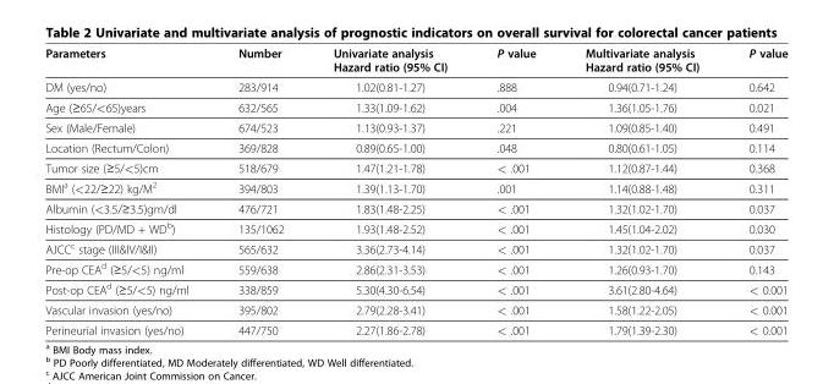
<table><thead><tr><td>Parameters</td><td>Number</td><td>Univariate analysis Hazard ratio (95% CI)</td><td>P value</td><td>Multivariate analysis Hazard ratio (95% CI)</td><td>P value</td></tr></thead><tbody><tr><td>DM (yes/no)</td><td>283/914</td><td>1.02(0.81-1.27)</td><td>.888</td><td>0.94(0.71-1.24)</td><td>0.642</td></tr><tr><td>Age (≥65/&lt;65)years</td><td>632/565</td><td>1.33(1.09-1.62)</td><td>.004</td><td>1.36(1.05-1.76)</td><td>0.021</td></tr><tr><td>Sex (Male/Female)</td><td>674/523</td><td>1.13(0.93-1.37)</td><td>.221</td><td>1.09(0.85-1.40)</td><td>0.491</td></tr><tr><td>Location (Rectum/Colon)</td><td>369/828</td><td>0.89(0.65-1.00)</td><td>.048</td><td>0.80(0.61-1.05)</td><td>0.114</td></tr><tr><td>Tumor size (≥5/&lt;5)cm</td><td>518/679</td><td>1.47(1.21-1.78)</td><td>&lt; .001</td><td>1.12(0.87-1.44)</td><td>0.368</td></tr><tr><td>BMI<sup>a</sup> (&lt;22/≥22) kg/M<sup>2</sup></td><td>394/803</td><td>1.39(1.13-1.70)</td><td>.001</td><td>1.14(0.88-1.48)</td><td>0.311</td></tr><tr><td>Albumin (&lt;3.5/≥3.5)gm/dl</td><td>476/721</td><td>1.83(1.48-2.25)</td><td>&lt; .001</td><td>1.32(1.02-1.70)</td><td>0.037</td></tr><tr><td>Histology (PD/MD + WD<sup>b</sup>)</td><td>135/1062</td><td>1.93(1.48-2.52)</td><td>&lt; .001</td><td>1.45(1.04-2.02)</td><td>0.030</td></tr><tr><td>AJCC<sup>c</sup> stage (III&amp;IV/I&amp;II)</td><td>565/632</td><td>3.36(2.73-4.14)</td><td>&lt; .001</td><td>1.32(1.02-1.70)</td><td>0.037</td></tr><tr><td>Pre-op CEA<sup>d</sup> (≥5/&lt;5) ng/ml</td><td>559/638</td><td>2.86(2.31-3.53)</td><td>&lt; .001</td><td>1.26(0.93-1.70)</td><td>0.143</td></tr><tr><td>Post-op CEA<sup>d</sup> (≥5/&lt;5) ng/ml</td><td>338/859</td><td>5.30(4.30-6.54)</td><td>&lt; .001</td><td>3.61(2.80-4.64)</td><td>&lt; 0.001</td></tr><tr><td>Vascular invasion (yes/no)</td><td>395/802</td><td>2.79(2.28-3.41)</td><td>&lt; .001</td><td>1.58(1.22-2.05)</td><td>&lt; 0.001</td></tr><tr><td>Perineurial invasion (yes/no)</td><td>447/750</td><td>2.27(1.86-2.78)</td><td>&lt; .001</td><td>1.79(1.39-2.30)</td><td>&lt; 0.001</td></tr></tbody></table>